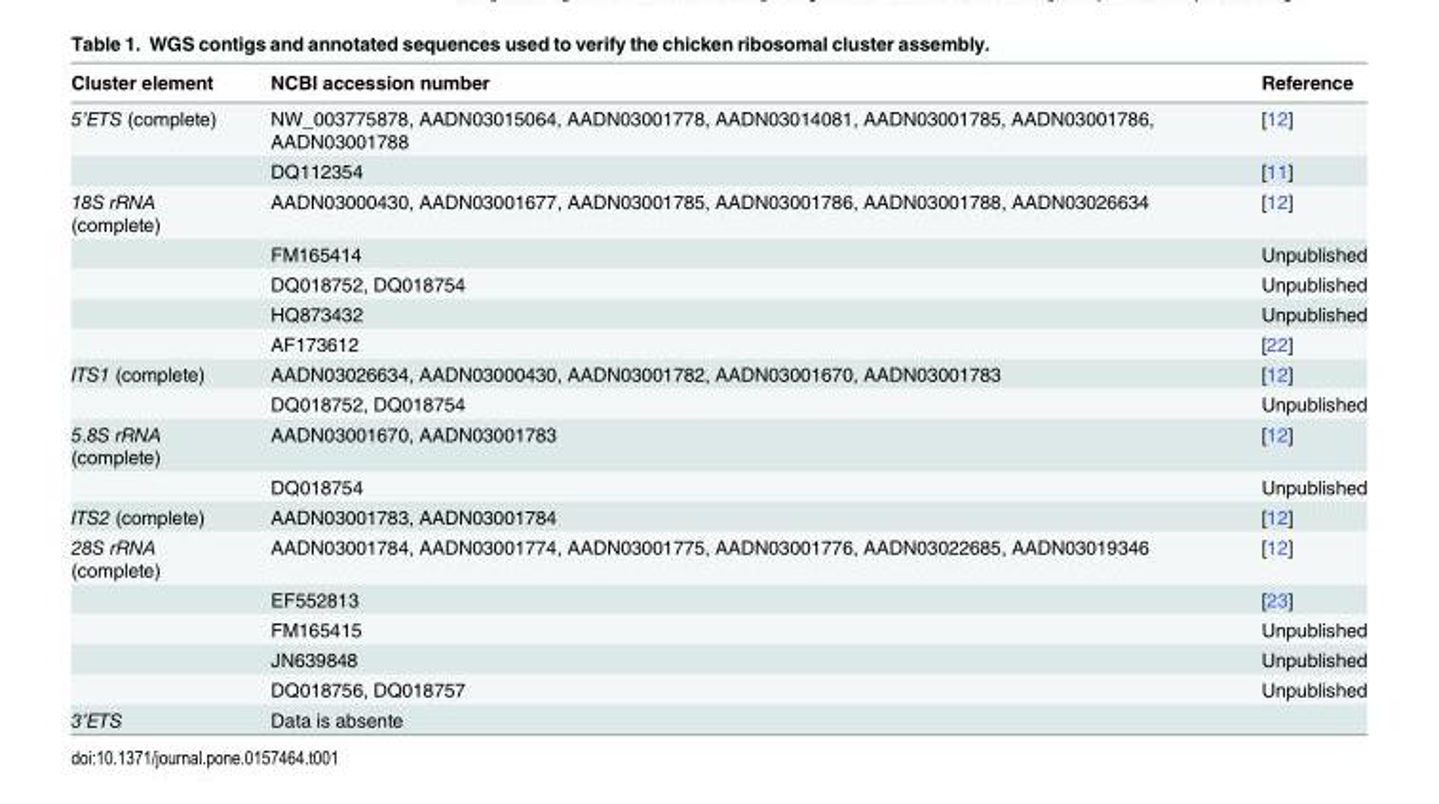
<table><thead><tr><td>Cluster element</td><td>NCBI accession number</td><td>Reference</td></tr></thead><tbody><tr><td rowspan="2">5’ETS (complete)</td><td>NW_003775878, AADN03015064, AADN03001778, AADN03014081, AADN03001785, AADN03001786, AADN03001788</td><td>[12]</td></tr><tr><td>DQ112354</td><td>[11]</td></tr><tr><td rowspan="5">18S rRNA (complete)</td><td>AADN03000430, AADN03001677, AADN03001785, AADN03001786, AADN03001788, AADN03026634</td><td>[12]</td></tr><tr><td>FM165414</td><td>Unpublished</td></tr><tr><td>DQ018752, DQ018754</td><td>Unpublished</td></tr><tr><td>HQ873432</td><td>Unpublished</td></tr><tr><td>AF173612</td><td>[22]</td></tr><tr><td rowspan="2">ITS1 (complete)</td><td>AADN03026634, AADN03000430, AADN03001782, AADN03001670, AADN03001783</td><td>[12]</td></tr><tr><td>DQ018752, DQ018754</td><td>Unpublished</td></tr><tr><td rowspan="2">5.8S rRNA (complete)</td><td>AADN03001670, AADN03001783</td><td>[12]</td></tr><tr><td>DQ018754</td><td>Unpublished</td></tr><tr><td>ITS2 (complete)</td><td>AADN03001783, AADN03001784</td><td>[12]</td></tr><tr><td rowspan="5">28S rRNA (complete)</td><td>AADN03001784, AADN03001774, AADN03001775, AADN03001776, AADN03022685, AADN03019346</td><td>[12]</td></tr><tr><td>EF552813</td><td>[23]</td></tr><tr><td>FM165415</td><td>Unpublished</td></tr><tr><td>JN639848</td><td>Unpublished</td></tr><tr><td>DQ018756, DQ018757</td><td>Unpublished</td></tr><tr><td>3’ETS</td><td>Data is absente</td><td></td></tr></tbody></table>